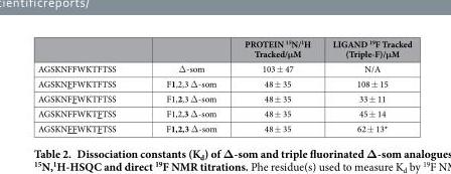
<table><thead><tr><td></td><td></td><td>PROTEIN <sup>15</sup>N/<sup>1</sup>H Tracked/μM</td><td>LIGAND <sup>19</sup>F Tracked (Triple-F)/μM</td></tr></thead><tbody><tr><td>AGSKNFFWKTFTSS</td><td>Δ -som</td><td>103 ± 47</td><td>N/A</td></tr><tr><td>AGSKNFFWKTFTSS</td><td>F1,2,3 Δ -som</td><td>48 ± 35</td><td>108 ± 15</td></tr><tr><td>AGSKNFFWKTFTSS</td><td>F1,2,3 Δ -som</td><td>48 ± 35</td><td>33 ± 11</td></tr><tr><td>AGSKNFFWKTFTSS</td><td>F1,2,3 Δ -som</td><td>48 ± 35</td><td>45 ± 14</td></tr><tr><td>AGSKNFFWKTFTSS</td><td>F1,2,3 Δ -som</td><td>48 ± 35</td><td>62 ± 13*</td></tr></tbody></table>